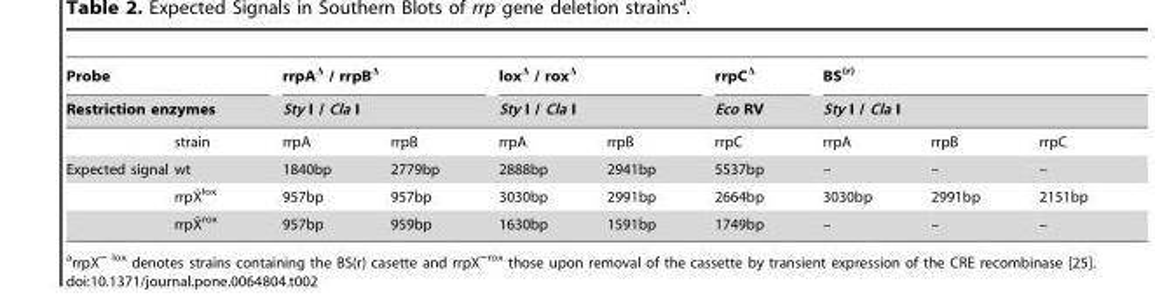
<table><thead><tr><td rowspan="2" colspan="2">Probe Restriction enzymes</td><td rowspan="2" colspan="2">rrpA<sup>Δ</sup> / rrpB<sup>Δ</sup> Sty I / Cla I</td><td rowspan="2" colspan="2">lox<sup>Δ</sup> / rox<sup>Δ</sup> Sty I / Cla I</td><td rowspan="3">rrpC<sup>Δ</sup> Eco RV rrpC</td><td rowspan="2" colspan="3">BS<sup>(r)</sup> Sty I / Cla I</td></tr><tr></tr><tr><td></td><td>strain</td><td>rrpA</td><td>rrpB</td><td>rrpA</td><td>rrpB</td><td>rrpA</td><td>rrpB</td><td>rrpC</td></tr></thead><tbody><tr><td rowspan="3">Expected signal</td><td>wt</td><td>1840bp</td><td>2779bp</td><td>2888bp</td><td>2941bp</td><td>5537bp</td><td>–</td><td>–</td><td>–</td></tr><tr><td>rrpX¯ <sup>lox</sup></td><td>957bp</td><td>957bp</td><td>3030bp</td><td>2991bp</td><td>2664bp</td><td>3030bp</td><td>2991bp</td><td>2151bp</td></tr><tr><td>rrpX¯ <sup>rox</sup></td><td>957bp</td><td>959bp</td><td>1630bp</td><td>1591bp</td><td>1749bp</td><td>–</td><td>–</td><td>–</td></tr></tbody></table>